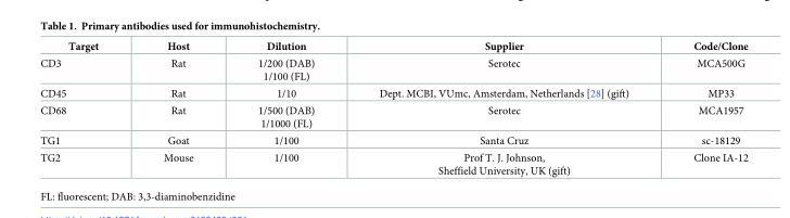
<table><thead><tr><td>Target</td><td>Host</td><td>Dilution</td><td>Supplier</td><td>Code/Clone</td></tr></thead><tbody><tr><td>CD3</td><td>Rat</td><td>1/200 (DAB) 1/100 (FL)</td><td>Serotec</td><td>MCA500G</td></tr><tr><td>CD45</td><td>Rat</td><td>1/10</td><td>Dept. MCBI, VUmc, Amsterdam, Netherlands [28] (gift)</td><td>MP33</td></tr><tr><td>CD68</td><td>Rat</td><td>1/500 (DAB) 1/1000 (FL)</td><td>Serotec</td><td>MCA1957</td></tr><tr><td>TG1</td><td>Goat</td><td>1/100</td><td>Santa Cruz</td><td>sc-18129</td></tr><tr><td>TG2</td><td>Mouse</td><td>1/100</td><td>Prof T. J. Johnson, Sheffield University, UK (gift)</td><td>Clone IA-12</td></tr></tbody></table>